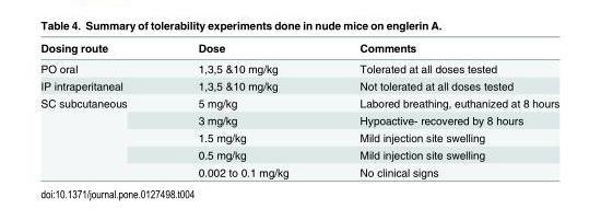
<table><thead><tr><td>Dosing route</td><td>Dose</td><td>Comments</td></tr></thead><tbody><tr><td>PO oral</td><td>1,3,5 &amp;10 mg/kg</td><td>Tolerated at all doses tested</td></tr><tr><td>IP intraperitaneal</td><td>1,3,5 &amp;10 mg/kg</td><td>Not tolerated at all doses tested</td></tr><tr><td rowspan="5">SC subcutaneous</td><td>5 mg/kg</td><td>Labored breathing, euthanized at 8 hours</td></tr><tr><td>3 mg/kg</td><td>Hypoactive- recovered by 8 hours</td></tr><tr><td>1.5 mg/kg</td><td>Mild injection site swelling</td></tr><tr><td>0.5 mg/kg</td><td>Mild injection site swelling</td></tr><tr><td>0.002 to 0.1 mg/kg</td><td>No clinical signs</td></tr></tbody></table>